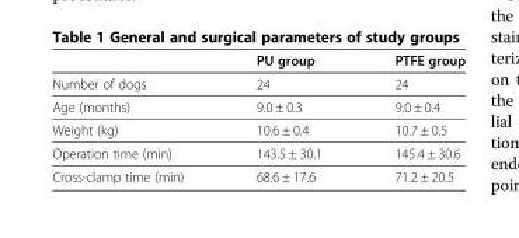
<table><thead><tr><td></td><td>PU group</td><td>PTFE group</td></tr></thead><tbody><tr><td>Number of dogs</td><td>24</td><td>24</td></tr><tr><td>Age (months)</td><td>9.0 ± 0.3</td><td>9.0 ± 0.4</td></tr><tr><td>Weight (kg)</td><td>10.6 ± 0.4</td><td>10.7 ± 0.5</td></tr><tr><td>Operation time (min)</td><td>143.5 ± 30.1</td><td>145.4 ± 30.6</td></tr><tr><td>Cross-clamp time (min)</td><td>68.6 ± 17.6</td><td>71.2 ± 20.5</td></tr></tbody></table>